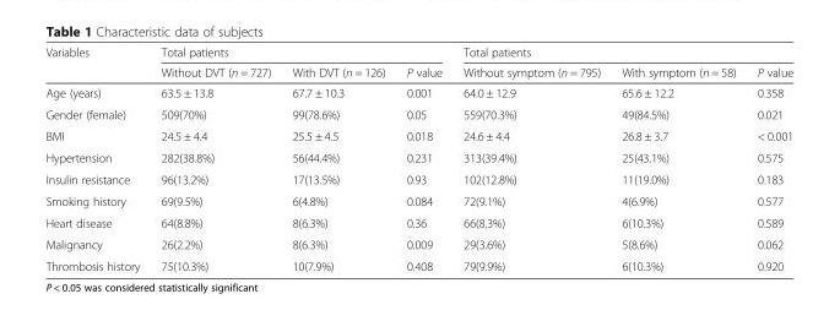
<table><thead><tr><td rowspan="2">Variables</td><td colspan="3">Total patients</td><td colspan="3">Total patients</td></tr><tr><td>Without DVT (n = 727)</td><td>With DVT (n = 126)</td><td>P value</td><td>Without symptom (n = 795)</td><td>With symptom (n = 58)</td><td>P value</td></tr></thead><tbody><tr><td>Age (years)</td><td>63.5 ± 13.8</td><td>67.7 ± 10.3</td><td>0.001</td><td>64.0 ± 12.9</td><td>65.6 ± 12.2</td><td>0.358</td></tr><tr><td>Gender (female)</td><td>509(70%)</td><td>99(78.6%)</td><td>0.05</td><td>559(70.3%)</td><td>49(84.5%)</td><td>0.021</td></tr><tr><td>BMI</td><td>24.5 ± 4.4</td><td>25.5 ± 4.5</td><td>0.018</td><td>24.6 ± 4.4</td><td>26.8 ± 3.7</td><td>&lt; 0.001</td></tr><tr><td>Hypertension</td><td>282(38.8%)</td><td>56(44.4%)</td><td>0.231</td><td>313(39.4%)</td><td>25(43.1%)</td><td>0.575</td></tr><tr><td>Insulin resistance</td><td>96(13.2%)</td><td>17(13.5%)</td><td>0.93</td><td>102(12.8%)</td><td>11(19.0%)</td><td>0.183</td></tr><tr><td>Smoking history</td><td>69(9.5%)</td><td>6(4.8%)</td><td>0.084</td><td>72(9.1%)</td><td>4(6.9%)</td><td>0.577</td></tr><tr><td>Heart disease</td><td>64(8.8%)</td><td>8(6.3%)</td><td>0.36</td><td>66(8.3%)</td><td>6(10.3%)</td><td>0.589</td></tr><tr><td>Malignancy</td><td>26(2.2%)</td><td>8(6.3%)</td><td>0.009</td><td>29(3.6%)</td><td>5(8.6%)</td><td>0.062</td></tr><tr><td>Thrombosis history</td><td>75(10.3%)</td><td>10(7.9%)</td><td>0.408</td><td>79(9.9%)</td><td>6(10.3%)</td><td>0.920</td></tr></tbody></table>